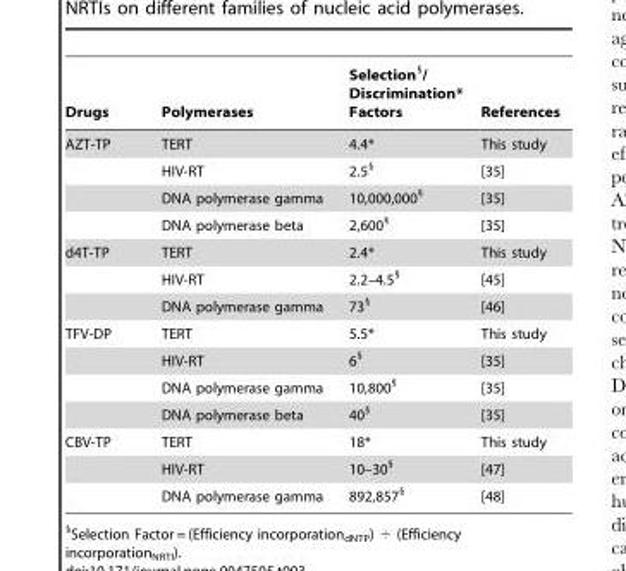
<table><thead><tr><td>Drugs</td><td>Polymerases</td><td>Selection§/ Discrimination* Factors</td><td>References</td></tr></thead><tbody><tr><td rowspan="4">AZT-TP</td><td>TERT</td><td>4.4*</td><td>This study</td></tr><tr><td>HIV-RT</td><td>2.5§</td><td>[35]</td></tr><tr><td>DNA polymerase gamma</td><td>10,000,000§</td><td>[35]</td></tr><tr><td>DNA polymerase beta</td><td>2,600§</td><td>[35]</td></tr><tr><td rowspan="3">d4T-TP</td><td>TERT</td><td>2.4*</td><td>This study</td></tr><tr><td>HIV-RT</td><td>2.2–4.5§</td><td>[45]</td></tr><tr><td>DNA polymerase gamma</td><td>73§</td><td>[46]</td></tr><tr><td rowspan="4">TFV-DP</td><td>TERT</td><td>5.5*</td><td>This study</td></tr><tr><td>HIV-RT</td><td>6§</td><td>[35]</td></tr><tr><td>DNA polymerase gamma</td><td>10,800§</td><td>[35]</td></tr><tr><td>DNA polymerase beta</td><td>40§</td><td>[35]</td></tr><tr><td rowspan="3">CBV-TP</td><td>TERT</td><td>18*</td><td>This study</td></tr><tr><td>HIV-RT</td><td>10–30§</td><td>[47]</td></tr><tr><td>DNA polymerase gamma</td><td>892,857§</td><td>[48]</td></tr></tbody></table>